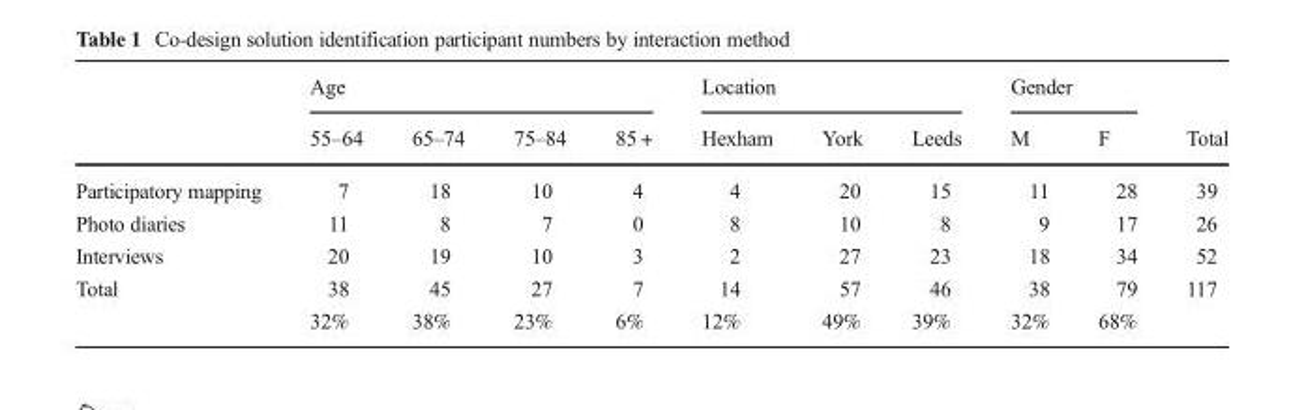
<table><thead><tr><td rowspan="2"></td><td colspan="4">Age</td><td colspan="3">Location</td><td colspan="2">Gender</td><td rowspan="2">Total</td></tr><tr><td>55–64</td><td>65–74</td><td>75–84</td><td>85 +</td><td>Hexham</td><td>York</td><td>Leeds</td><td>M</td><td>F</td></tr></thead><tbody><tr><td>Participatory mapping</td><td>7</td><td>18</td><td>10</td><td>4</td><td>4</td><td>20</td><td>15</td><td>11</td><td>28</td><td>39</td></tr><tr><td>Photo diaries</td><td>11</td><td>8</td><td>7</td><td>0</td><td>8</td><td>10</td><td>8</td><td>9</td><td>17</td><td>26</td></tr><tr><td>Interviews</td><td>20</td><td>19</td><td>10</td><td>3</td><td>2</td><td>27</td><td>23</td><td>18</td><td>34</td><td>52</td></tr><tr><td rowspan="2">Total</td><td>38</td><td>45</td><td>27</td><td>7</td><td>14</td><td>57</td><td>46</td><td>38</td><td>79</td><td>117</td></tr><tr><td>32%</td><td>38%</td><td>23%</td><td>6%</td><td>12%</td><td>49%</td><td>39%</td><td>32%</td><td>68%</td><td></td></tr></tbody></table>